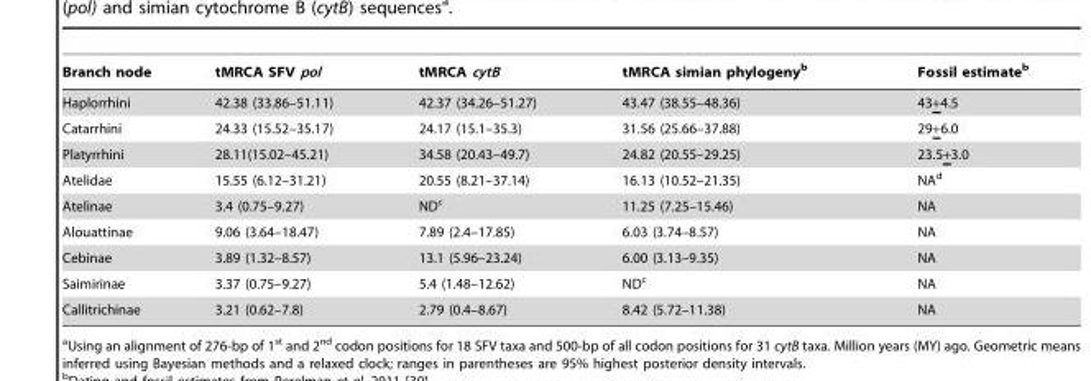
<table><thead><tr><td>Branch node</td><td>tMRCA SFV pol</td><td>tMRCA cytB</td><td>tMRCA simian phylogeny<sup>b</sup></td><td>Fossil estimate<sup>b</sup></td></tr></thead><tbody><tr><td>Haplorrhini</td><td>42.38 (33.86–51.11)</td><td>42.37 (34.26–51.27)</td><td>43.47 (38.55–48.36)</td><td>43+4.5</td></tr><tr><td>Catarrhini</td><td>24.33 (15.52–35.17)</td><td>24.17 (15.1–35.3)</td><td>31.56 (25.66–37.88)</td><td>29+6.0</td></tr><tr><td>Platyrrhini</td><td>28.11(15.02–45.21)</td><td>34.58 (20.43–49.7)</td><td>24.82 (20.55–29.25)</td><td>23.5+3.0</td></tr><tr><td>Atelidae</td><td>15.55 (6.12–31.21)</td><td>20.55 (8.21–37.14)</td><td>16.13 (10.52–21.35)</td><td>NA<sup>d</sup></td></tr><tr><td>Atelinae</td><td>3.4 (0.75–9.27)</td><td>ND<sup>c</sup></td><td>11.25 (7.25–15.46)</td><td>NA</td></tr><tr><td>Alouattinae</td><td>9.06 (3.64–18.47)</td><td>7.89 (2.4–17.85)</td><td>6.03 (3.74–8.57)</td><td>NA</td></tr><tr><td>Cebinae</td><td>3.89 (1.32–8.57)</td><td>13.1 (5.96–23.24)</td><td>6.00 (3.13–9.35)</td><td>NA</td></tr><tr><td>Saimirinae</td><td>3.37 (0.75–9.27)</td><td>5.4 (1.48–12.62)</td><td>ND<sup>c</sup></td><td>NA</td></tr><tr><td>Callitrichinae</td><td>3.21 (0.62–7.8)</td><td>2.79 (0.4–8.67)</td><td>8.42 (5.72–11.38)</td><td>NA</td></tr></tbody></table>